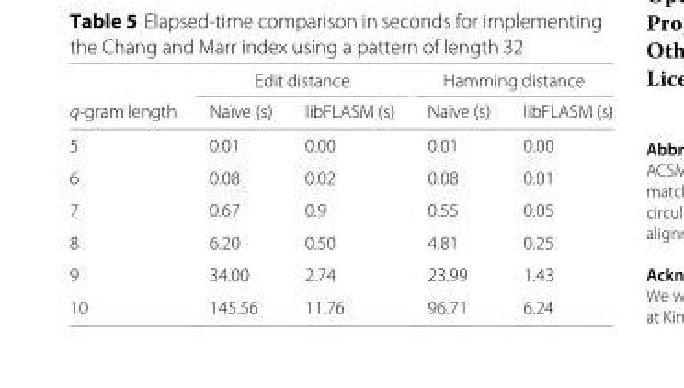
<table><thead><tr><td rowspan="2">q-gram length</td><td colspan="2">Edit distance</td><td colspan="2">Hamming distance</td></tr><tr><td>Naïve (s)</td><td>libFLASM (s)</td><td>Naïve (s)</td><td>libFLASM (s)</td></tr></thead><tbody><tr><td>5</td><td>0.01</td><td>0.00</td><td>0.01</td><td>0.00</td></tr><tr><td>6</td><td>0.08</td><td>0.02</td><td>0.08</td><td>0.01</td></tr><tr><td>7</td><td>0.67</td><td>0.9</td><td>0.55</td><td>0.05</td></tr><tr><td>8</td><td>6.20</td><td>0.50</td><td>4.81</td><td>0.25</td></tr><tr><td>9</td><td>34.00</td><td>2.74</td><td>23.99</td><td>1.43</td></tr><tr><td>10</td><td>145.56</td><td>11.76</td><td>96.71</td><td>6.24</td></tr></tbody></table>